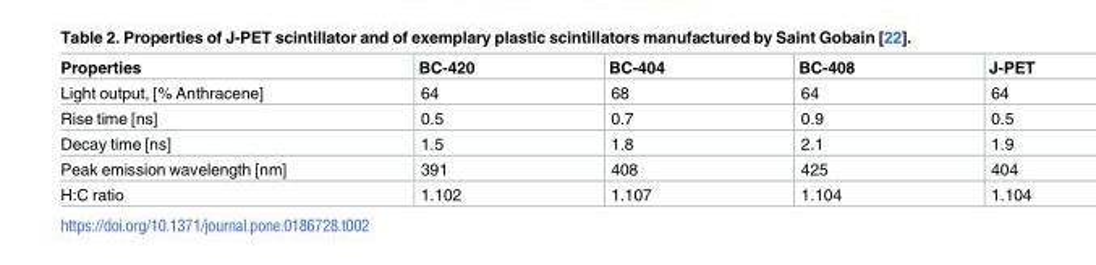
<table><thead><tr><td>Properties</td><td>BC-420</td><td>BC-404</td><td>BC-408</td><td>J-PET</td></tr></thead><tbody><tr><td>Light output, [% Anthracene]</td><td>64</td><td>68</td><td>64</td><td>64</td></tr><tr><td>Rise time [ns]</td><td>0.5</td><td>0.7</td><td>0.9</td><td>0.5</td></tr><tr><td>Decay time [ns]</td><td>1.5</td><td>1.8</td><td>2.1</td><td>1.9</td></tr><tr><td>Peak emission wavelength [nm]</td><td>391</td><td>408</td><td>425</td><td>404</td></tr><tr><td>H:C ratio</td><td>1.102</td><td>1.107</td><td>1.104</td><td>1.104</td></tr></tbody></table>